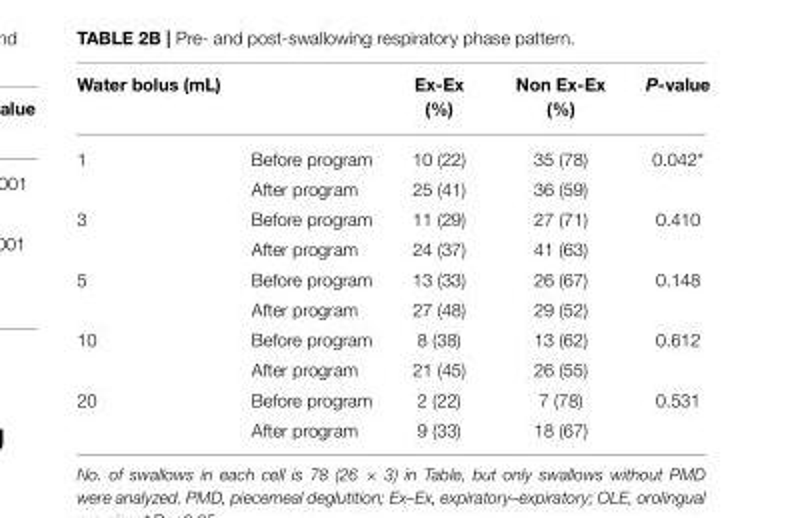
<table><thead><tr><td>Water bolus (mL)</td><td></td><td>Ex-Ex (%)</td><td>Non Ex-Ex (%)</td><td>P-value</td></tr></thead><tbody><tr><td rowspan="2">1</td><td>Before program</td><td>10 (22)</td><td>35 (78)</td><td>0.042*</td></tr><tr><td>After program</td><td>25 (41)</td><td>36 (59)</td><td></td></tr><tr><td rowspan="2">3</td><td>Before program</td><td>11 (29)</td><td>27 (71)</td><td>0.410</td></tr><tr><td>After program</td><td>24 (37)</td><td>41 (63)</td><td></td></tr><tr><td rowspan="2">5</td><td>Before program</td><td>13 (33)</td><td>26 (67)</td><td>0.148</td></tr><tr><td>After program</td><td>27 (48)</td><td>29 (52)</td><td></td></tr><tr><td rowspan="2">10</td><td>Before program</td><td>8 (38)</td><td>13 (62)</td><td>0.612</td></tr><tr><td>After program</td><td>21 (45)</td><td>26 (55)</td><td></td></tr><tr><td rowspan="2">20</td><td>Before program</td><td>2 (22)</td><td>7 (78)</td><td>0.531</td></tr><tr><td>After program</td><td>9 (33)</td><td>18 (67)</td><td></td></tr></tbody></table>